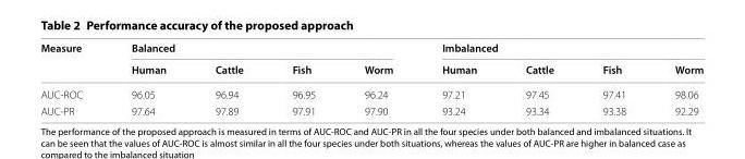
<table><thead><tr><td rowspan="2">Measure</td><td colspan="4">Balanced</td><td colspan="4">Imbalanced</td></tr><tr><td>Human</td><td>Cattle</td><td>Fish</td><td>Worm</td><td>Human</td><td>Cattle</td><td>Fish</td><td>Worm</td></tr></thead><tbody><tr><td>AUC-ROC</td><td>96.05</td><td>96.94</td><td>96.95</td><td>96.24</td><td>97.21</td><td>97.45</td><td>97.41</td><td>98.06</td></tr><tr><td>AUC-PR</td><td>97.64</td><td>97.89</td><td>97.91</td><td>97.90</td><td>93.24</td><td>93.34</td><td>93.38</td><td>92.29</td></tr></tbody></table>